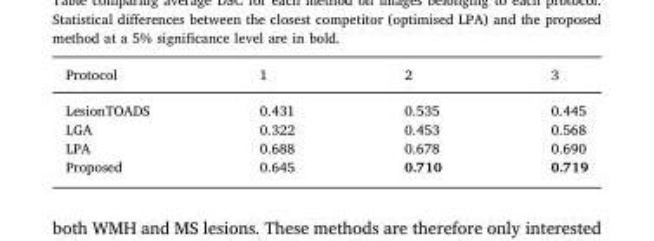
<table><thead><tr><td>Protocol</td><td>1</td><td>2</td><td>3</td></tr></thead><tbody><tr><td>LesionTOADS</td><td>0.431</td><td>0.535</td><td>0.445</td></tr><tr><td>LGA</td><td>0.322</td><td>0.453</td><td>0.568</td></tr><tr><td>LPA</td><td>0.688</td><td>0.678</td><td>0.690</td></tr><tr><td>Proposed</td><td>0.645</td><td>0.710</td><td>0.719</td></tr></tbody></table>